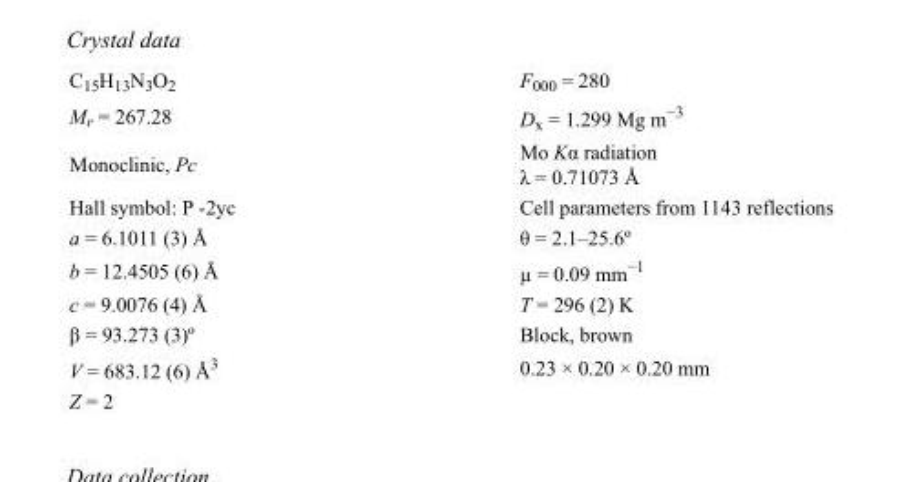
<table><tbody><tr><td>C<sub>15</sub>H<sub>13</sub>N<sub>3</sub>O<sub>2</sub></td><td>F<sub>000</sub> = 280</td></tr><tr><td>M<sub>r</sub> = 267.28</td><td>D<sub>x</sub> = 1.299 Mg m<sup>−3</sup></td></tr><tr><td>Monoclinic, Pc</td><td>Mo Kα radiation λ = 0.71073 Å</td></tr><tr><td>Hall symbol: P -2yc</td><td>Cell parameters from 1143 reflections</td></tr><tr><td>a = 6.1011 (3) Å</td><td>θ = 2.1–25.6º</td></tr><tr><td>b = 12.4505 (6) Å</td><td>µ = 0.09 mm<sup>−1</sup></td></tr><tr><td>c = 9.0076 (4) Å</td><td>T = 296 (2) K</td></tr><tr><td>β = 93.273 (3)º</td><td>Block, brown</td></tr><tr><td>V = 683.12 (6) Å<sup>3</sup></td><td>0.23 × 0.20 × 0.20 mm</td></tr><tr><td>Z = 2</td><td></td></tr></tbody></table>